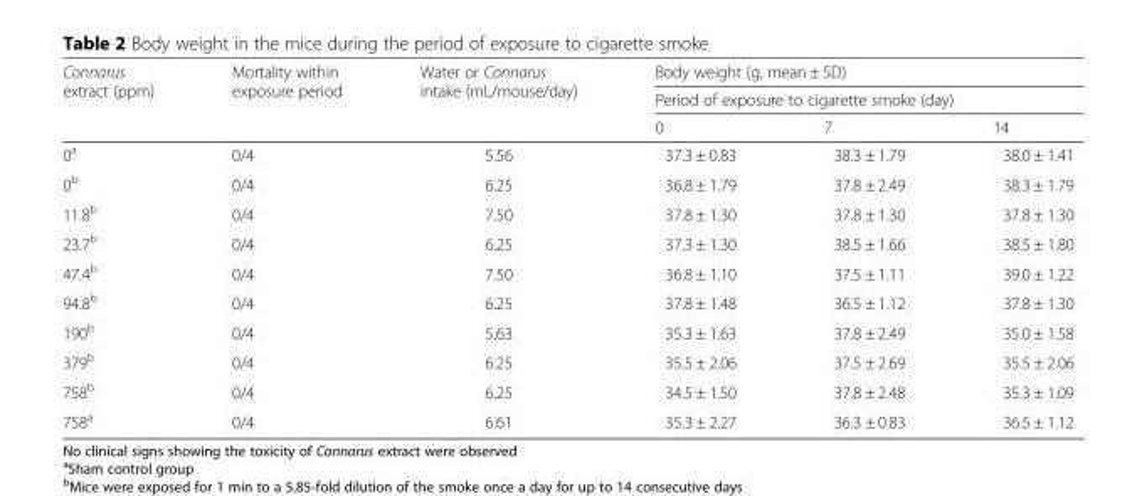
<table><thead><tr><td rowspan="3">Connarus extract (ppm)</td><td rowspan="3">Mortality within exposure period</td><td rowspan="3">Water or Connarus intake (mL/mouse/day)</td><td rowspan="2" colspan="3">Body weight (g, mean ± SD) Period of exposure to cigarette smoke (day)</td></tr><tr></tr><tr><td>0</td><td>7</td><td>14</td></tr></thead><tbody><tr><td>0<sup>a</sup></td><td>0/4</td><td>5.56</td><td>37.3 ± 0.83</td><td>38.3 ± 1.79</td><td>38.0 ± 1.41</td></tr><tr><td>0<sup>b</sup></td><td>0/4</td><td>6.25</td><td>36.8 ± 1.79</td><td>37.8 ± 2.49</td><td>38.3 ± 1.79</td></tr><tr><td>11.8<sup>b</sup></td><td>0/4</td><td>7.50</td><td>37.8 ± 1.30</td><td>37.8 ± 1.30</td><td>37.8 ± 1.30</td></tr><tr><td>23.7<sup>b</sup></td><td>0/4</td><td>6.25</td><td>37.3 ± 1.30</td><td>38.5 ± 1.66</td><td>38.5 ± 1.80</td></tr><tr><td>47.4<sup>b</sup></td><td>0/4</td><td>7.50</td><td>36.8 ± 1.10</td><td>37.5 ± 1.11</td><td>39.0 ± 1.22</td></tr><tr><td>94.8<sup>b</sup></td><td>0/4</td><td>6.25</td><td>37.8 ± 1.48</td><td>36.5 ± 1.12</td><td>37.8 ± 1.30</td></tr><tr><td>190<sup>b</sup></td><td>0/4</td><td>5.63</td><td>35.3 ± 1.63</td><td>37.8 ± 2.49</td><td>35.0 ± 1.58</td></tr><tr><td>379<sup>b</sup></td><td>0/4</td><td>6.25</td><td>35.5 ± 2.06</td><td>37.5 ± 2.69</td><td>35.5 ± 2.06</td></tr><tr><td>758<sup>b</sup></td><td>0/4</td><td>6.25</td><td>34.5 ± 1.50</td><td>37.8 ± 2.48</td><td>35.3 ± 1.09</td></tr><tr><td>758<sup>a</sup></td><td>0/4</td><td>6.61</td><td>35.3 ± 2.27</td><td>36.3 ± 0.83</td><td>36.5 ± 1.12</td></tr></tbody></table>